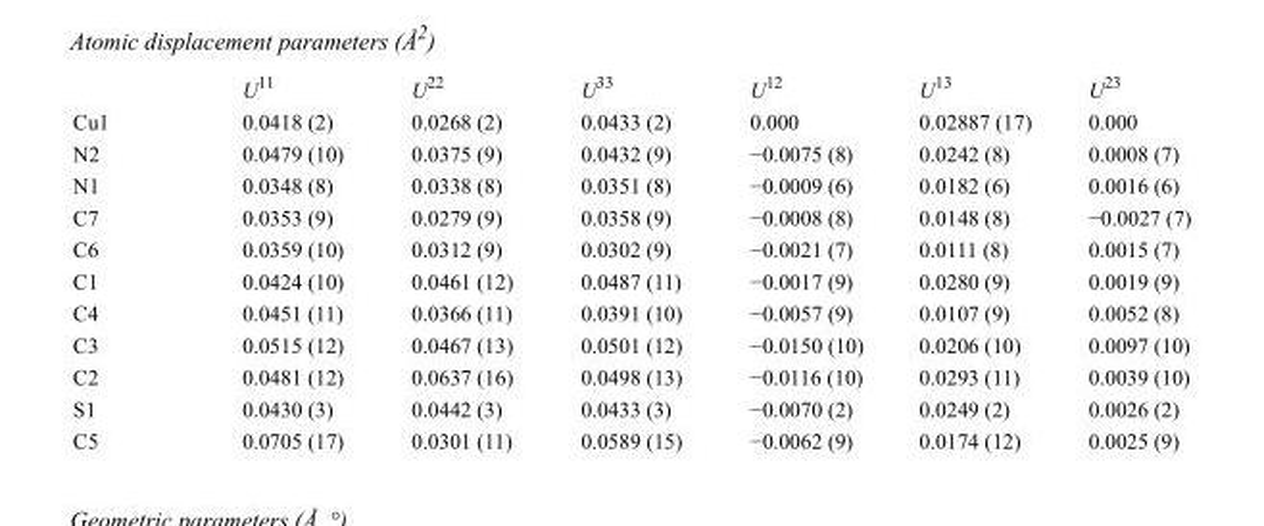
<table><thead><tr><td></td><td>U<sup>11</sup></td><td>U<sup>22</sup></td><td>U<sup>33</sup></td><td>U<sup>12</sup></td><td>U<sup>13</sup></td><td>U<sup>23</sup></td></tr></thead><tbody><tr><td>Cu1</td><td>0.0418 (2)</td><td>0.0268 (2)</td><td>0.0433 (2)</td><td>0.000</td><td>0.02887 (17)</td><td>0.000</td></tr><tr><td>N2</td><td>0.0479 (10)</td><td>0.0375 (9)</td><td>0.0432 (9)</td><td>−0.0075 (8)</td><td>0.0242 (8)</td><td>0.0008 (7)</td></tr><tr><td>N1</td><td>0.0348 (8)</td><td>0.0338 (8)</td><td>0.0351 (8)</td><td>−0.0009 (6)</td><td>0.0182 (6)</td><td>0.0016 (6)</td></tr><tr><td>C7</td><td>0.0353 (9)</td><td>0.0279 (9)</td><td>0.0358 (9)</td><td>−0.0008 (8)</td><td>0.0148 (8)</td><td>−0.0027 (7)</td></tr><tr><td>C6</td><td>0.0359 (10)</td><td>0.0312 (9)</td><td>0.0302 (9)</td><td>−0.0021 (7)</td><td>0.0111 (8)</td><td>0.0015 (7)</td></tr><tr><td>C1</td><td>0.0424 (10)</td><td>0.0461 (12)</td><td>0.0487 (11)</td><td>−0.0017 (9)</td><td>0.0280 (9)</td><td>0.0019 (9)</td></tr><tr><td>C4</td><td>0.0451 (11)</td><td>0.0366 (11)</td><td>0.0391 (10)</td><td>−0.0057 (9)</td><td>0.0107 (9)</td><td>0.0052 (8)</td></tr><tr><td>C3</td><td>0.0515 (12)</td><td>0.0467 (13)</td><td>0.0501 (12)</td><td>−0.0150 (10)</td><td>0.0206 (10)</td><td>0.0097 (10)</td></tr><tr><td>C2</td><td>0.0481 (12)</td><td>0.0637 (16)</td><td>0.0498 (13)</td><td>−0.0116 (10)</td><td>0.0293 (11)</td><td>0.0039 (10)</td></tr><tr><td>S1</td><td>0.0430 (3)</td><td>0.0442 (3)</td><td>0.0433 (3)</td><td>−0.0070 (2)</td><td>0.0249 (2)</td><td>0.0026 (2)</td></tr><tr><td>C5</td><td>0.0705 (17)</td><td>0.0301 (11)</td><td>0.0589 (15)</td><td>−0.0062 (9)</td><td>0.0174 (12)</td><td>0.0025 (9)</td></tr></tbody></table>